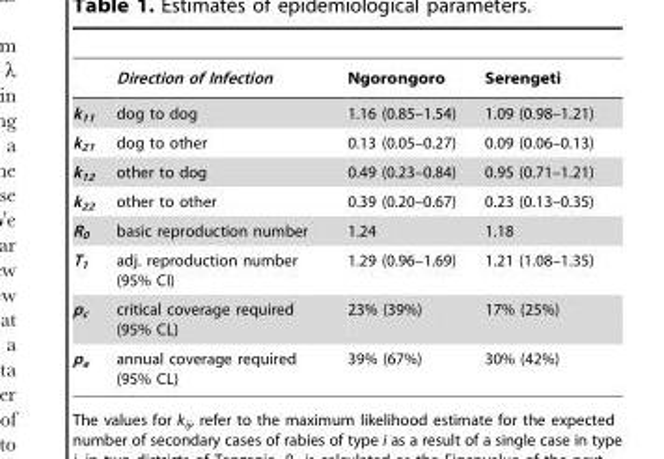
<table><thead><tr><td></td><td>Direction of Infection</td><td>Ngorongoro</td><td>Serengeti</td></tr></thead><tbody><tr><td>k<sub>11</sub></td><td>dog to dog</td><td>1.16 (0.85–1.54)</td><td>1.09 (0.98–1.21)</td></tr><tr><td>k<sub>21</sub></td><td>dog to other</td><td>0.13 (0.05–0.27)</td><td>0.09 (0.06–0.13)</td></tr><tr><td>k<sub>12</sub></td><td>other to dog</td><td>0.49 (0.23–0.84)</td><td>0.95 (0.71–1.21)</td></tr><tr><td>k<sub>22</sub></td><td>other to other</td><td>0.39 (0.20–0.67)</td><td>0.23 (0.13–0.35)</td></tr><tr><td>R0</td><td>basic reproduction number</td><td>1.24</td><td>1.18</td></tr><tr><td>T<sub>1</sub></td><td>adj. reproduction number (95% CI)</td><td>1.29 (0.96–1.69)</td><td>1.21 (1.08–1.35)</td></tr><tr><td>p<sub>c</sub></td><td>critical coverage required (95% CL)</td><td>23% (39%)</td><td>17% (25%)</td></tr><tr><td>p<sub>a</sub></td><td>annual coverage required (95% CL)</td><td>39% (67%)</td><td>30% (42%)</td></tr></tbody></table>